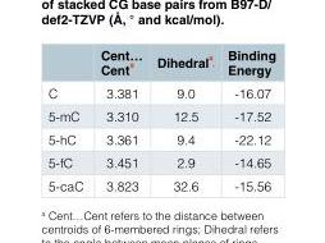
<table><thead><tr><td></td><td>Cent… Cent <sup>a</sup></td><td>Dihedral <sup>a</sup></td><td>Binding Energy</td></tr></thead><tbody><tr><td>C</td><td>3.381</td><td>9.0</td><td>-16.07</td></tr><tr><td>5-mC</td><td>3.310</td><td>12.5</td><td>-17.52</td></tr><tr><td>5-hC</td><td>3.361</td><td>9.4</td><td>-22.12</td></tr><tr><td>5-fC</td><td>3.451</td><td>2.9</td><td>-14.65</td></tr><tr><td>5-caC</td><td>3.823</td><td>32.6</td><td>-15.56</td></tr></tbody></table>